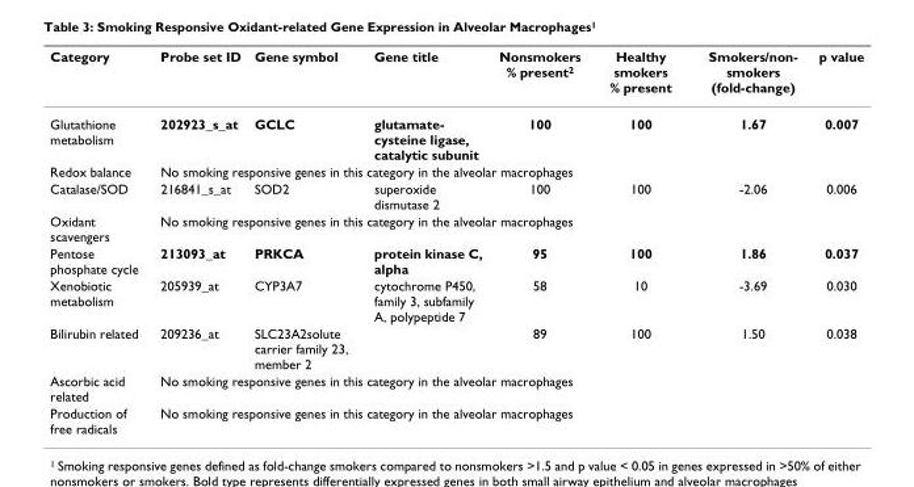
<table><thead><tr><td>Category</td><td>Probe set ID</td><td>Gene symbol</td><td>Gene title</td><td>Nonsmokers % present<sup>2</sup></td><td>Healthy smokers % present</td><td>Smokers/non- smokers (fold-change)</td><td>p value</td></tr></thead><tbody><tr><td>Glutathione metabolism</td><td>202923_s_at</td><td>GCLC</td><td>glutamate- cysteine ligase, catalytic subunit</td><td>100</td><td>100</td><td>1.67</td><td>0.007</td></tr><tr><td>Redox balance</td><td colspan="7">No smoking responsive genes in this category in the alveolar macrophages</td></tr><tr><td>Catalase/SOD</td><td>216841_s_at</td><td>SOD2</td><td>superoxide dismutase 2</td><td>100</td><td>100</td><td>-2.06</td><td>0.006</td></tr><tr><td>Oxidant scavengers</td><td colspan="7">No smoking responsive genes in this category in the alveolar macrophages</td></tr><tr><td>Pentose phosphate cycle</td><td>213093_at</td><td>PRKCA</td><td>protein kinase C, alpha</td><td>95</td><td>100</td><td>1.86</td><td>0.037</td></tr><tr><td>Xenobiotic metabolism</td><td>205939_at</td><td>CYP3A7</td><td>cytochrome P450, family 3, subfamily A, polypeptide 7</td><td>58</td><td>10</td><td>-3.69</td><td>0.030</td></tr><tr><td>Bilirubin related</td><td>209236_at</td><td>SLC23A2solute carrier family 23, member 2</td><td></td><td>89</td><td>100</td><td>1.50</td><td>0.038</td></tr><tr><td>Ascorbic acid related</td><td colspan="7">No smoking responsive genes in this category in the alveolar macrophages</td></tr><tr><td>Production of free radicals</td><td colspan="7">No smoking responsive genes in this category in the alveolar macrophages</td></tr></tbody></table>